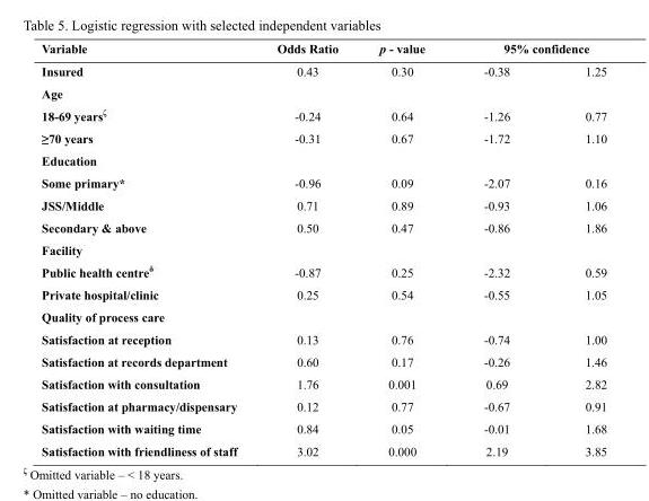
<table><thead><tr><td rowspan="2">Variable Insured</td><td rowspan="2">Odds Ratio 0.43</td><td rowspan="2">p - value 0.30</td><td colspan="2">95% confidence</td></tr><tr><td>-0.38</td><td>1.25</td></tr></thead><tbody><tr><td colspan="5">Age</td></tr><tr><td>18-69 years<sup>ζ</sup></td><td>-0.24</td><td>0.64</td><td>-1.26</td><td>0.77</td></tr><tr><td>≥70 years</td><td>-0.31</td><td>0.67</td><td>-1.72</td><td>1.10</td></tr><tr><td>Education Some primary*</td><td>-0.96</td><td>0.09</td><td>-2.07</td><td>0.16</td></tr><tr><td>JSS/Middle</td><td>0.71</td><td>0.89</td><td>-0.93</td><td>1.06</td></tr><tr><td>Secondary &amp; above</td><td>0.50</td><td>0.47</td><td>-0.86</td><td>1.86</td></tr><tr><td colspan="5">Facility</td></tr><tr><td>Public health centre<sup>δ</sup></td><td>-0.87</td><td>0.25</td><td>-2.32</td><td>0.59</td></tr><tr><td>Private hospital/clinic</td><td>0.25</td><td>0.54</td><td>-0.55</td><td>1.05</td></tr><tr><td colspan="5">Quality of process care</td></tr><tr><td>Satisfaction at reception</td><td>0.13</td><td>0.76</td><td>-0.74</td><td>1.00</td></tr><tr><td>Satisfaction at records department</td><td>0.60</td><td>0.17</td><td>-0.26</td><td>1.46</td></tr><tr><td>Satisfaction with consultation</td><td>1.76</td><td>0.001</td><td>0.69</td><td>2.82</td></tr><tr><td>Satisfaction at pharmacy/dispensary</td><td>0.12</td><td>0.77</td><td>-0.67</td><td>0.91</td></tr><tr><td>Satisfaction with waiting time</td><td>0.84</td><td>0.05</td><td>-0.01</td><td>1.68</td></tr><tr><td>Satisfaction with friendliness of staff</td><td>3.02</td><td>0.000</td><td>2.19</td><td>3.85</td></tr></tbody></table>